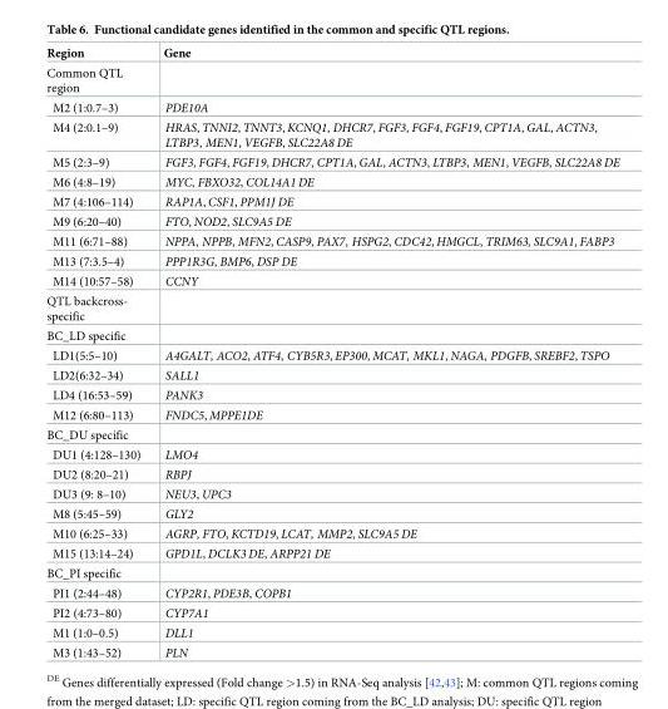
<table><thead><tr><td>Region</td><td>Gene</td></tr></thead><tbody><tr><td colspan="2">Common QTL region</td></tr><tr><td>M2 (1:0.7–3)</td><td>PDE10A</td></tr><tr><td>M4 (2:0.1–9)</td><td>HRAS, TNNI2, TNNT3, KCNQ1, DHCR7, FGF3, FGF4, FGF19, CPT1A, GAL, ACTN3, LTBP3, MEN1, VEGFB, SLC22A8 DE</td></tr><tr><td>M5 (2:3–9)</td><td>FGF3, FGF4, FGF19, DHCR7, CPT1A, GAL, ACTN3, LTBP3, MEN1, VEGFB, SLC22A8 DE</td></tr><tr><td>M6 (4:8–19)</td><td>MYC, FBXO32, COL14A1 DE</td></tr><tr><td>M7 (4:106–114)</td><td>RAP1A, CSF1, PPM1J DE</td></tr><tr><td>M9 (6:20–40)</td><td>FTO, NOD2, SLC9A5 DE</td></tr><tr><td>M11 (6:71–88)</td><td>NPPA, NPPB, MFN2, CASP9, PAX7, HSPG2, CDC42, HMGCL, TRIM63, SLC9A1, FABP3</td></tr><tr><td>M13 (7:3.5–4)</td><td>PPP1R3G, BMP6, DSP DE</td></tr><tr><td>M14 (10:57–58)</td><td>CCNY</td></tr><tr><td colspan="2">QTL backcross- specific</td></tr><tr><td colspan="2">BC_LD specific</td></tr><tr><td>LD1(5:5–10)</td><td>A4GALT, ACO2, ATF4, CYB5R3, EP300, MCAT, MKL1, NAGA, PDGFB, SREBF2, TSPO</td></tr><tr><td>LD2(6:32–34)</td><td>SALL1</td></tr><tr><td>LD4 (16:53–59)</td><td>PANK3</td></tr><tr><td>M12 (6:80–113)</td><td>FNDC5, MPPE1DE</td></tr><tr><td colspan="2">BC_DU specific</td></tr><tr><td>DU1 (4:128–130)</td><td>LMO4</td></tr><tr><td>DU2 (8:20–21)</td><td>RBPJ</td></tr><tr><td>DU3 (9: 8–10)</td><td>NEU3, UPC3</td></tr><tr><td>M8 (5:45–59)</td><td>GLY2</td></tr><tr><td>M10 (6:25–33)</td><td>AGRP, FTO, KCTD19, LCAT, MMP2, SLC9A5 DE</td></tr><tr><td>M15 (13:14–24)</td><td>GPD1L, DCLK3 DE, ARPP21 DE</td></tr><tr><td colspan="2">BC_PI specific</td></tr><tr><td>PI1 (2:44–48)</td><td>CYP2R1, PDE3B, COPB1</td></tr><tr><td>PI2 (4:73–80)</td><td>CYP7A1</td></tr><tr><td>M1 (1:0–0.5)</td><td>DLL1</td></tr><tr><td>M3 (1:43–52)</td><td>PLN</td></tr></tbody></table>